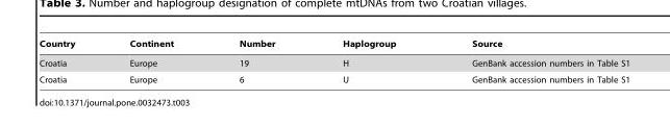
<table><thead><tr><td>Country</td><td>Continent</td><td>Number</td><td>Haplogroup</td><td>Source</td></tr></thead><tbody><tr><td>Croatia</td><td>Europe</td><td>19</td><td>H</td><td>GenBank accession numbers in Table S1</td></tr><tr><td>Croatia</td><td>Europe</td><td>6</td><td>U</td><td>GenBank accession numbers in Table S1</td></tr></tbody></table>